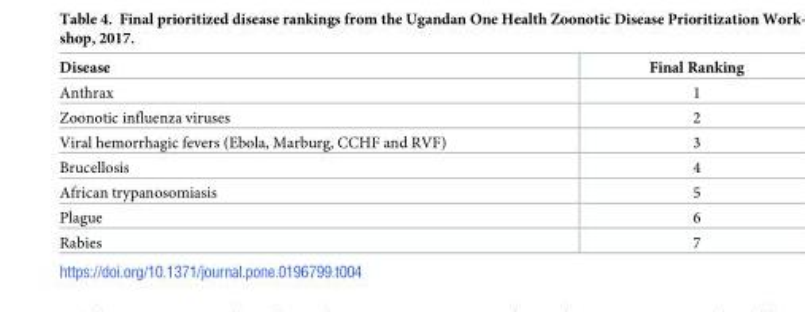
<table><thead><tr><td>Disease</td><td>Final Ranking</td></tr></thead><tbody><tr><td>Anthrax</td><td>1</td></tr><tr><td>Zoonotic influenza viruses</td><td>2</td></tr><tr><td>Viral hemorrhagic fevers (Ebola, Marburg, CCHF and RVF)</td><td>3</td></tr><tr><td>Brucellosis</td><td>4</td></tr><tr><td>African trypanosomiasis</td><td>5</td></tr><tr><td>Plague</td><td>6</td></tr><tr><td>Rabies</td><td>7</td></tr></tbody></table>